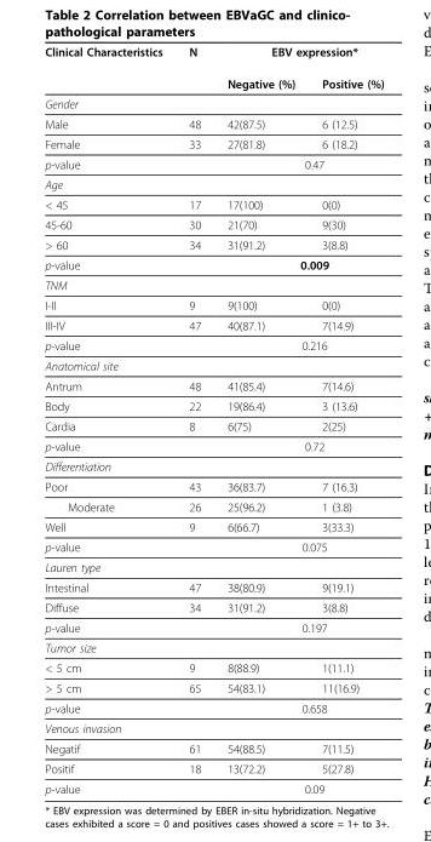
<table><thead><tr><td rowspan="2">Clinical Characteristics</td><td rowspan="2">N</td><td colspan="2">EBV expression*</td></tr><tr><td>Negative (%)</td><td>Positive (%)</td></tr></thead><tbody><tr><td colspan="4">Gender</td></tr><tr><td>Male</td><td>48</td><td>42(87.5)</td><td>6 (12.5)</td></tr><tr><td>Female</td><td>33</td><td>27(81.8)</td><td>6 (18.2)</td></tr><tr><td>p-value</td><td></td><td colspan="2">0.47</td></tr><tr><td colspan="4">Age</td></tr><tr><td>&lt; 45</td><td>17</td><td>17(100)</td><td>0(0)</td></tr><tr><td>45-60</td><td>30</td><td>21(70)</td><td>9(30)</td></tr><tr><td>&gt; 60</td><td>34</td><td>31(91.2)</td><td>3(8.8)</td></tr><tr><td>p-value</td><td></td><td colspan="2">0.009</td></tr><tr><td colspan="4">TNM</td></tr><tr><td>I-II</td><td>9</td><td>9(100)</td><td>0(0)</td></tr><tr><td>III-IV</td><td>47</td><td>40(87.1)</td><td>7(14.9)</td></tr><tr><td>p-value</td><td></td><td colspan="2">0.216</td></tr><tr><td colspan="4">Anatomical site</td></tr><tr><td>Antrum</td><td>48</td><td>41(85.4)</td><td>7(14.6)</td></tr><tr><td>Body</td><td>22</td><td>19(86.4)</td><td>3 (13.6)</td></tr><tr><td>Cardia</td><td>8</td><td>6(75)</td><td>2(25)</td></tr><tr><td>p-value</td><td></td><td colspan="2">0.72</td></tr><tr><td colspan="4">Differentiation</td></tr><tr><td>Poor</td><td>43</td><td>36(83.7)</td><td>7 (16.3)</td></tr><tr><td>Moderate</td><td>26</td><td>25(96.2)</td><td>1 (3.8)</td></tr><tr><td>Well</td><td>9</td><td>6(66.7)</td><td>3(33.3)</td></tr><tr><td>p-value</td><td></td><td colspan="2">0.075</td></tr><tr><td colspan="4">Lauren type</td></tr><tr><td>Intestinal</td><td>47</td><td>38(80.9)</td><td>9(19.1)</td></tr><tr><td>Diffuse</td><td>34</td><td>31(91.2)</td><td>3(8.8)</td></tr><tr><td>p-value</td><td></td><td colspan="2">0.197</td></tr><tr><td colspan="4">Tumor size</td></tr><tr><td>&lt; 5 cm</td><td>9</td><td>8(88.9)</td><td>1(11.1)</td></tr><tr><td>&gt; 5 cm</td><td>65</td><td>54(83.1)</td><td>11(16.9)</td></tr><tr><td>p-value</td><td></td><td colspan="2">0.658</td></tr><tr><td colspan="4">Venous invasion</td></tr><tr><td>Negatif</td><td>61</td><td>54(88.5)</td><td>7(11.5)</td></tr><tr><td>Positif</td><td>18</td><td>13(72.2)</td><td>5(27.8)</td></tr><tr><td>p-value</td><td></td><td colspan="2">0.09</td></tr></tbody></table>